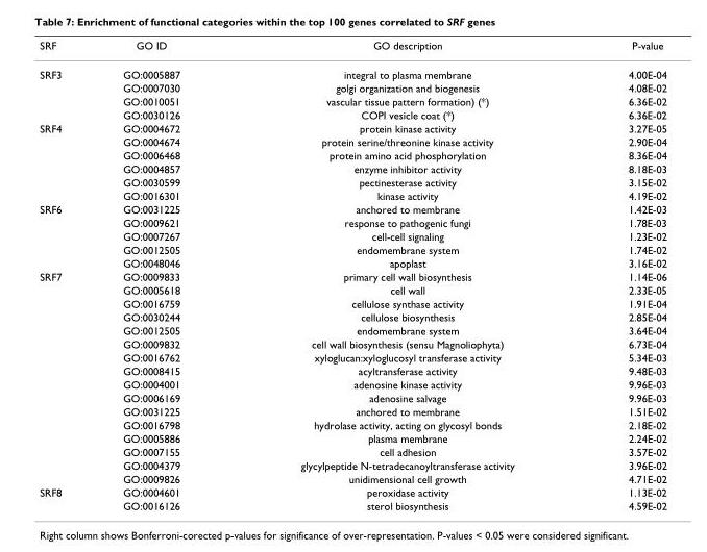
<table><thead><tr><td>SRF</td><td>GO ID</td><td>GO description</td><td>P-value</td></tr></thead><tbody><tr><td rowspan="4">SRF3</td><td>GO:0005887</td><td>integral to plasma membrane</td><td>4.00E-04</td></tr><tr><td>GO:0007030</td><td>golgi organization and biogenesis</td><td>4.08E-02</td></tr><tr><td>GO:0010051</td><td>vascular tissue pattern formation) (*)</td><td>6.36E-02</td></tr><tr><td>GO:0030126</td><td>COPI vesicle coat (*)</td><td>6.36E-02</td></tr><tr><td rowspan="6">SRF4</td><td>GO:0004672</td><td>protein kinase activity</td><td>3.27E-05</td></tr><tr><td>GO:0004674</td><td>protein serine/threonine kinase activity</td><td>2.90E-04</td></tr><tr><td>GO:0006468</td><td>protein amino acid phosphorylation</td><td>8.36E-04</td></tr><tr><td>GO:0004857</td><td>enzyme inhibitor activity</td><td>8.18E-03</td></tr><tr><td>GO:0030599</td><td>pectinesterase activity</td><td>3.15E-02</td></tr><tr><td>GO:0016301</td><td>kinase activity</td><td>4.19E-02</td></tr><tr><td rowspan="5">SRF6</td><td>GO:0031225</td><td>anchored to membrane</td><td>1.42E-03</td></tr><tr><td>GO:0009621</td><td>response to pathogenic fungi</td><td>1.78E-03</td></tr><tr><td>GO:0007267</td><td>cell-cell signaling</td><td>1.23E-02</td></tr><tr><td>GO:0012505</td><td>endomembrane system</td><td>1.74E-02</td></tr><tr><td>GO:0048046</td><td>apoplast</td><td>3.16E-02</td></tr><tr><td rowspan="16">SRF7</td><td>GO:0009833</td><td>primary cell wall biosynthesis</td><td>1.14E-06</td></tr><tr><td>GO:0005618</td><td>cell wall</td><td>2.33E-05</td></tr><tr><td>GO:0016759</td><td>cellulose synthase activity</td><td>1.91E-04</td></tr><tr><td>GO:0030244</td><td>cellulose biosynthesis</td><td>2.85E-04</td></tr><tr><td>GO:0012505</td><td>endomembrane system</td><td>3.64E-04</td></tr><tr><td>GO:0009832</td><td>cell wall biosynthesis (sensu Magnoliophyta)</td><td>6.73E-04</td></tr><tr><td>GO:0016762</td><td>xyloglucan:xyloglucosyl transferase activity</td><td>5.34E-03</td></tr><tr><td>GO:0008415</td><td>acyltransferase activity</td><td>9.48E-03</td></tr><tr><td>GO:0004001</td><td>adenosine kinase activity</td><td>9.96E-03</td></tr><tr><td>GO:0006169</td><td>adenosine salvage</td><td>9.96E-03</td></tr><tr><td>GO:0031225</td><td>anchored to membrane</td><td>1.51E-02</td></tr><tr><td>GO:0016798</td><td>hydrolase activity, acting on glycosyl bonds</td><td>2.18E-02</td></tr><tr><td>GO:0005886</td><td>plasma membrane</td><td>2.24E-02</td></tr><tr><td>GO:0007155</td><td>cell adhesion</td><td>3.57E-02</td></tr><tr><td>GO:0004379</td><td>glycylpeptide N-tetradecanoyltransferase activity</td><td>3.96E-02</td></tr><tr><td>GO:0009826</td><td>unidimensional cell growth</td><td>4.71E-02</td></tr><tr><td rowspan="2">SRF8</td><td>GO:0004601</td><td>peroxidase activity</td><td>1.13E-02</td></tr><tr><td>GO:0016126</td><td>sterol biosynthesis</td><td>4.59E-02</td></tr></tbody></table>